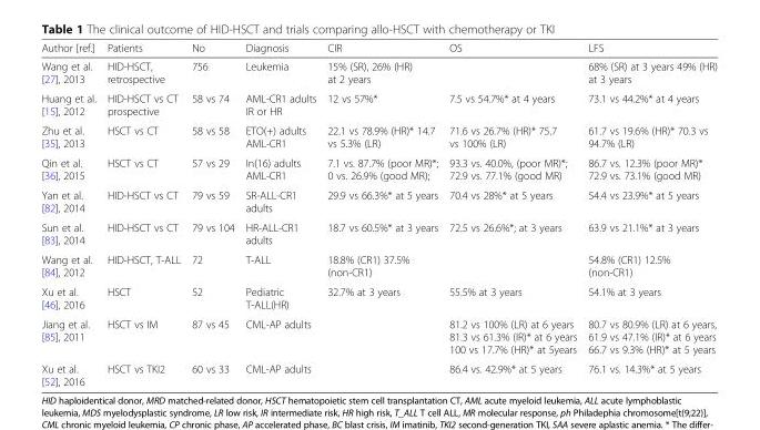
<table><thead><tr><td>Author [ref.]</td><td>Patients</td><td>No</td><td>Diagnosis</td><td>CIR</td><td>OS</td><td>LFS</td></tr></thead><tbody><tr><td>Wang et al. [27], 2013</td><td>HID-HSCT, retrospective</td><td>756</td><td>Leukemia</td><td>15% (SR), 26% (HR) at 2 years</td><td></td><td>68% (SR) at 3 years 49% (HR) at 3 years</td></tr><tr><td>Huang et al. [15], 2012</td><td>HID-HSCT vs CT prospective</td><td>58 vs 74</td><td>AML-CR1 adults IR or HR</td><td>12 vs 57%*</td><td>7.5 vs 54.7%* at 4 years</td><td>73.1 vs 44.2%* at 4 years</td></tr><tr><td>Zhu et al. [35], 2013</td><td>HSCT vs CT</td><td>58 vs 58</td><td>ETO(+) adults AML-CR1</td><td>22.1 vs 78.9% (HR)* 14.7 vs 5.3% (LR)</td><td>71.6 vs 26.7% (HR)* 75.7 vs 100% (LR)</td><td>61.7 vs 19.6% (HR)* 70.3 vs 94.7% (LR)</td></tr><tr><td>Qin et al. [36], 2015</td><td>HSCT vs CT</td><td>57 vs 29</td><td>In(16) adults AML-CR1</td><td>7.1 vs. 87.7% (poor MR)*; 0 vs. 26.9% (good MR);</td><td>93.3 vs. 40.0%, (poor MR)*; 72.9 vs. 77.1% (good MR)</td><td>86.7 vs. 12.3% (poor MR)* 72.9 vs. 73.1% (good MR)</td></tr><tr><td>Yan et al. [82], 2014</td><td>HID-HSCT vs CT</td><td>79 vs 59</td><td>SR-ALL-CR1 adults</td><td>29.9 vs 66.3%* at 5 years</td><td>70.4 vs 28%* at 5 years</td><td>54.4 vs 23.9%* at 5 years</td></tr><tr><td>Sun et al. [83], 2014</td><td>HID-HSCT vs CT</td><td>79 vs 104</td><td>HR-ALL-CR1 adults</td><td>18.7 vs 60.5%* at 3 years</td><td>72.5 vs 26.6%*; at 3 years</td><td>63.9 vs 21.1%* at 3 years</td></tr><tr><td>Wang et al. [84], 2012</td><td>HID-HSCT, T-ALL</td><td>72</td><td>T-ALL</td><td>18.8% (CR1) 37.5% (non-CR1)</td><td></td><td>54.8% (CR1) 12.5% (non-CR1)</td></tr><tr><td>Xu et al. [46], 2016</td><td>HSCT</td><td>52</td><td>Pediatric T-ALL(HR)</td><td>32.7% at 3 years</td><td>55.5% at 3 years</td><td>54.1% at 3 years</td></tr><tr><td>Jiang et al. [85], 2011</td><td>HSCT vs IM</td><td>87 vs 45</td><td>CML-AP adults</td><td></td><td>81.2 vs 100% (LR) at 6 years 81.3 vs 61.3% (IR)* at 6 years 100 vs 17.7% (HR)* at 5years</td><td>80.7 vs 80.9% (LR) at 6 years, 61.9 vs 47.1% (IR)* at 6 years 66.7 vs 9.3% (HR)* at 5 years</td></tr><tr><td>Xu et al. [52], 2016</td><td>HSCT vs TKI2</td><td>60 vs 33</td><td>CML-AP adults</td><td></td><td>86.4 vs. 42.9%* at 5 years</td><td>76.1 vs. 14.3%* at 5 years</td></tr></tbody></table>